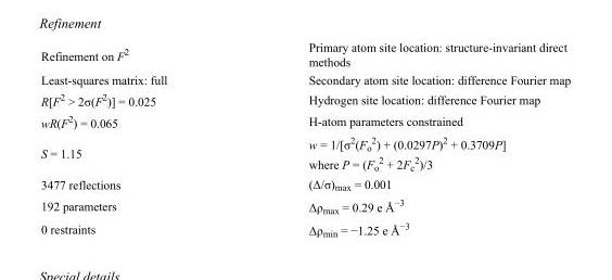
<table><tbody><tr><td>Refinement on F<sup>2</sup></td><td>Primary atom site location: structure-invariant direct methods</td></tr><tr><td>Least-squares matrix: full</td><td>Secondary atom site location: difference Fourier map</td></tr><tr><td>R[F<sup>2</sup> &gt; 2σ(F<sup>2</sup>)] = 0.025</td><td>Hydrogen site location: difference Fourier map</td></tr><tr><td>wR(F<sup>2</sup>) = 0.065</td><td>H-atom parameters constrained</td></tr><tr><td>S = 1.15</td><td>w = 1/[σ<sup>2</sup>(F<sub>o</sub> <sup>2</sup>) + (0.0297P)<sup>2</sup> + 0.3709P] where P = (F<sub>o</sub> <sup>2</sup> + 2F<sub>c</sub> <sup>2</sup>)/3</td></tr><tr><td>3477 reflections</td><td>(Δ/σ)<sub>max</sub> = 0.001</td></tr><tr><td>192 parameters</td><td>Δρ<sub>max</sub> = 0.29 e Å<sup>−3</sup></td></tr><tr><td>0 restraints</td><td>Δρ<sub>min</sub> = −1.25 e Å<sup>−3</sup></td></tr></tbody></table>